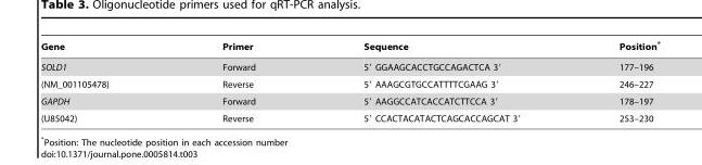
<table><thead><tr><td>Gene</td><td>Primer</td><td>Sequence</td><td>Position*</td></tr></thead><tbody><tr><td>SOLD1</td><td>Forward</td><td>5′ GGAAGCACCTGCCAGACTCA 3′</td><td>177–196</td></tr><tr><td>(NM_001105478)</td><td>Reverse</td><td>5′ AAAGCGTGCCATTTTCGAAG 3′</td><td>246–227</td></tr><tr><td>GAPDH</td><td>Forward</td><td>5′ AAGGCCATCACCATCTTCCA 3′</td><td>178–197</td></tr><tr><td>(U85042)</td><td>Reverse</td><td>5′ CCACTACATACTCAGCACCAGCAT 3′</td><td>253–230</td></tr></tbody></table>